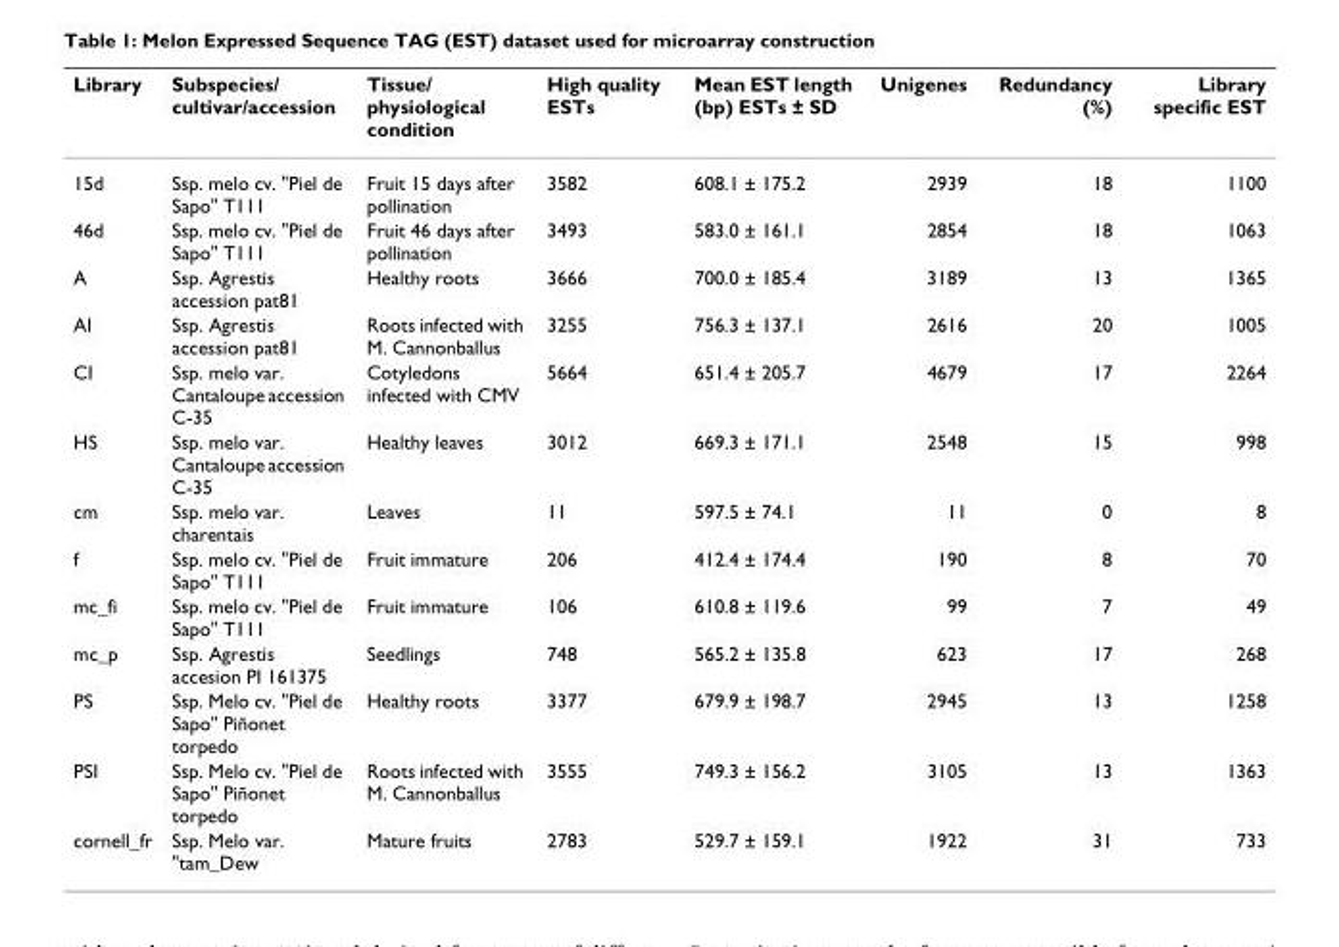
<table><thead><tr><td>Library</td><td>Subspecies/ cultivar/accession</td><td>Tissue/ physiological condition</td><td>High quality ESTs</td><td>Mean EST length (bp) ESTs ± SD</td><td>Unigenes</td><td>Redundancy (%)</td><td>Library specific EST</td></tr></thead><tbody><tr><td>15d</td><td>Ssp. melo cv. &quot;Piel de Sapo&quot; T111</td><td>Fruit 15 days after pollination</td><td>3582</td><td>608.1 ± 175.2</td><td>2939</td><td>18</td><td>1100</td></tr><tr><td>46d</td><td>Ssp. melo cv. &quot;Piel de Sapo&quot; T111</td><td>Fruit 46 days after pollination</td><td>3493</td><td>583.0 ± 161.1</td><td>2854</td><td>18</td><td>1063</td></tr><tr><td>A</td><td>Ssp. Agrestis accession pat81</td><td>Healthy roots</td><td>3666</td><td>700.0 ± 185.4</td><td>3189</td><td>13</td><td>1365</td></tr><tr><td>AI</td><td>Ssp. Agrestis accession pat81</td><td>Roots infected with M. Cannonballus</td><td>3255</td><td>756.3 ± 137.1</td><td>2616</td><td>20</td><td>1005</td></tr><tr><td>CI</td><td>Ssp. melo var. Cantaloupe accession C-35</td><td>Cotyledons infected with CMV</td><td>5664</td><td>651.4 ± 205.7</td><td>4679</td><td>17</td><td>2264</td></tr><tr><td>HS</td><td>Ssp. melo var. Cantaloupe accession C-35</td><td>Healthy leaves</td><td>3012</td><td>669.3 ± 171.1</td><td>2548</td><td>15</td><td>998</td></tr><tr><td>cm</td><td>Ssp. melo var. charentais</td><td>Leaves</td><td>11</td><td>597.5 ± 74.1</td><td>11</td><td>0</td><td>8</td></tr><tr><td>f</td><td>Ssp. melo cv. &quot;Piel de Sapo&quot; T111</td><td>Fruit immature</td><td>206</td><td>412.4 ± 174.4</td><td>190</td><td>8</td><td>70</td></tr><tr><td>mc_fi</td><td>Ssp. melo cv. &quot;Piel de Sapo&quot; T111</td><td>Fruit immature</td><td>106</td><td>610.8 ± 119.6</td><td>99</td><td>7</td><td>49</td></tr><tr><td>mc_p</td><td>Ssp. Agrestis accesion PI 161375</td><td>Seedlings</td><td>748</td><td>565.2 ± 135.8</td><td>623</td><td>17</td><td>268</td></tr><tr><td>PS</td><td>Ssp. Melo cv. &quot;Piel de Sapo&quot; Piñonet torpedo</td><td>Healthy roots</td><td>3377</td><td>679.9 ± 198.7</td><td>2945</td><td>13</td><td>1258</td></tr><tr><td>PSI</td><td>Ssp. Melo cv. &quot;Piel de Sapo&quot; Piñonet torpedo</td><td>Roots infected with M. Cannonballus</td><td>3555</td><td>749.3 ± 156.2</td><td>3105</td><td>13</td><td>1363</td></tr><tr><td>cornell_fr</td><td>Ssp. Melo var. &quot;tam_Dew</td><td>Mature fruits</td><td>2783</td><td>529.7 ± 159.1</td><td>1922</td><td>31</td><td>733</td></tr></tbody></table>